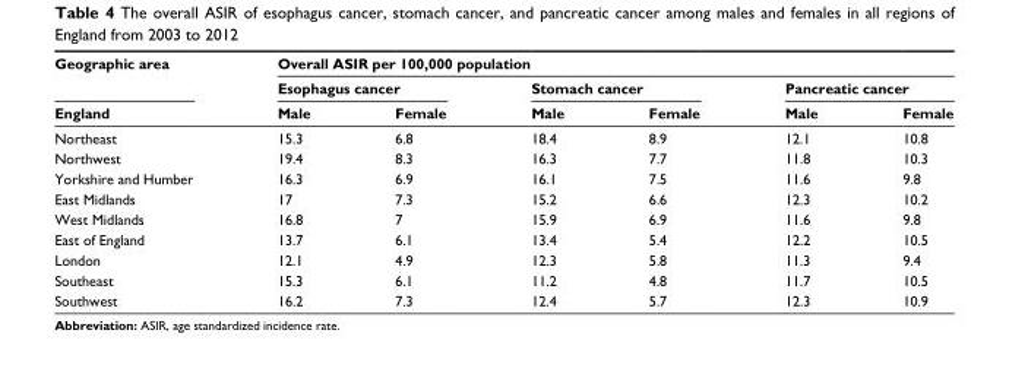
<table><thead><tr><td rowspan="3">Geographic area England</td><td colspan="6">Overall ASIR per 100,000 population</td></tr><tr><td colspan="2">Esophagus cancer</td><td colspan="2">Stomach cancer</td><td colspan="2">Pancreatic cancer</td></tr><tr><td>Male</td><td>Female</td><td>Male</td><td>Female</td><td>Male</td><td>Female</td></tr></thead><tbody><tr><td>Northeast</td><td>15.3</td><td>6.8</td><td>18.4</td><td>8.9</td><td>12.1</td><td>10.8</td></tr><tr><td>Northwest</td><td>19.4</td><td>8.3</td><td>16.3</td><td>7.7</td><td>11.8</td><td>10.3</td></tr><tr><td>yorkshire and humber</td><td>16.3</td><td>6.9</td><td>16.1</td><td>7.5</td><td>11.6</td><td>9.8</td></tr><tr><td>east Midlands</td><td>17</td><td>7.3</td><td>15.2</td><td>6.6</td><td>12.3</td><td>10.2</td></tr><tr><td>West Midlands</td><td>16.8</td><td>7</td><td>15.9</td><td>6.9</td><td>11.6</td><td>9.8</td></tr><tr><td>east of england</td><td>13.7</td><td>6.1</td><td>13.4</td><td>5.4</td><td>12.2</td><td>10.5</td></tr><tr><td>london</td><td>12.1</td><td>4.9</td><td>12.3</td><td>5.8</td><td>11.3</td><td>9.4</td></tr><tr><td>Southeast</td><td>15.3</td><td>6.1</td><td>11.2</td><td>4.8</td><td>11.7</td><td>10.5</td></tr><tr><td>Southwest</td><td>16.2</td><td>7.3</td><td>12.4</td><td>5.7</td><td>12.3</td><td>10.9</td></tr></tbody></table>